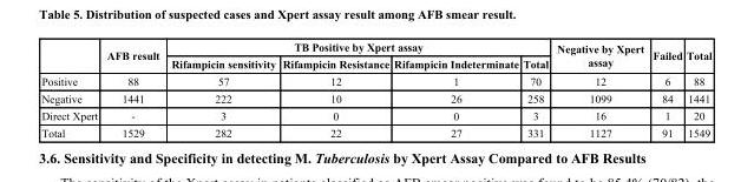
<table><thead><tr><td rowspan="2"></td><td rowspan="2">AFB result</td><td colspan="4">TB Positive by Xpert assay</td><td rowspan="2">Negative by Xpert assay</td><td rowspan="2">Failed</td><td rowspan="2">Total</td></tr><tr><td>Rifampicin sensitivity</td><td>Rifampicin Resistance</td><td>Rifampicin Indeterminate</td><td>Total</td></tr></thead><tbody><tr><td>Positive</td><td>88</td><td>57</td><td>12</td><td>1</td><td>70</td><td>12</td><td>6</td><td>88</td></tr><tr><td>Negative</td><td>1441</td><td>222</td><td>10</td><td>26</td><td>258</td><td>1099</td><td>84</td><td>1441</td></tr><tr><td>Direct Xpert</td><td>-</td><td>3</td><td>0</td><td>0</td><td>3</td><td>16</td><td>1</td><td>20</td></tr><tr><td>Total</td><td>1529</td><td>282</td><td>22</td><td>27</td><td>331</td><td>1127</td><td>91</td><td>1549</td></tr></tbody></table>